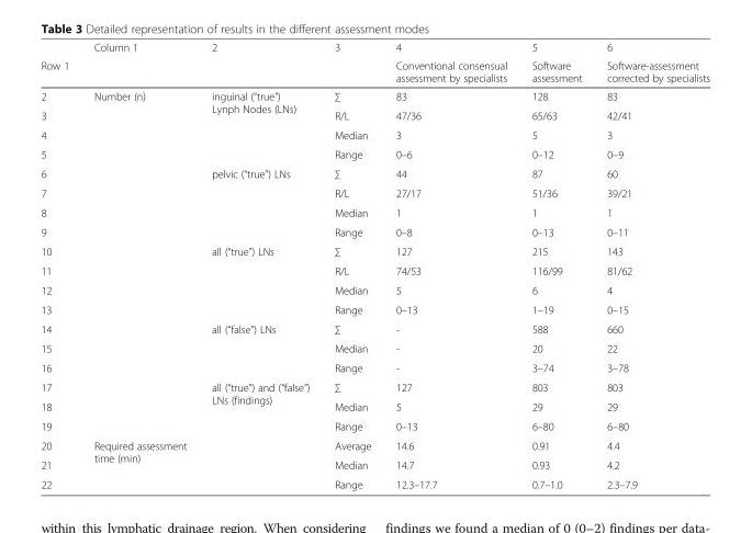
<table><thead><tr><td rowspan="2">Row 1</td><td rowspan="2">Column 1</td><td rowspan="2">2</td><td rowspan="2">3</td><td rowspan="2">4 Conventional consensual assessment by specialists</td><td rowspan="2">5 Software assessment</td><td rowspan="2">6 Software-assessment corrected by specialists</td></tr><tr></tr></thead><tbody><tr><td>2</td><td rowspan="18">Number (n)</td><td rowspan="4">inguinal (“true”) Lynph Nodes (LNs)</td><td>∑</td><td>83</td><td>128</td><td>83</td></tr><tr><td>3</td><td>R/L</td><td>47/36</td><td>65/63</td><td>42/41</td></tr><tr><td>4</td><td>Median</td><td>3</td><td>5</td><td>3</td></tr><tr><td>5</td><td>Range</td><td>0–6</td><td>0–12</td><td>0–9</td></tr><tr><td>6</td><td rowspan="4">pelvic (“true”) LNs</td><td>∑</td><td>44</td><td>87</td><td>60</td></tr><tr><td>7</td><td>R/L</td><td>27/17</td><td>51/36</td><td>39/21</td></tr><tr><td>8</td><td>Median</td><td>1</td><td>1</td><td>1</td></tr><tr><td>9</td><td>Range</td><td>0–8</td><td>0–13</td><td>0–11</td></tr><tr><td>10</td><td rowspan="4">all (“true”) LNs</td><td>∑</td><td>127</td><td>215</td><td>143</td></tr><tr><td>11</td><td>R/L</td><td>74/53</td><td>116/99</td><td>81/62</td></tr><tr><td>12</td><td>Median</td><td>5</td><td>6</td><td>4</td></tr><tr><td>13</td><td>Range</td><td>0–13</td><td>1–19</td><td>0–15</td></tr><tr><td>14</td><td rowspan="3">all (“false”) LNs</td><td>∑</td><td>-</td><td>588</td><td>660</td></tr><tr><td>15</td><td>Median</td><td>-</td><td>20</td><td>22</td></tr><tr><td>16</td><td>Range</td><td>-</td><td>3–74</td><td>3–78</td></tr><tr><td>17</td><td rowspan="3">all (“true”) and (“false”) LNs (findings)</td><td>∑</td><td>127</td><td>803</td><td>803</td></tr><tr><td>18</td><td>Median</td><td>5</td><td>29</td><td>29</td></tr><tr><td>19</td><td>Range</td><td>0–13</td><td>6–80</td><td>6–80</td></tr><tr><td>20</td><td rowspan="3">Required assessment time (min)</td><td></td><td>Average</td><td>14.6</td><td>0.91</td><td>4.4</td></tr><tr><td>21</td><td></td><td>Median</td><td>14.7</td><td>0.93</td><td>4.2</td></tr><tr><td>22</td><td></td><td>Range</td><td>12.3–17.7</td><td>0.7–1.0</td><td>2.3–7.9</td></tr></tbody></table>